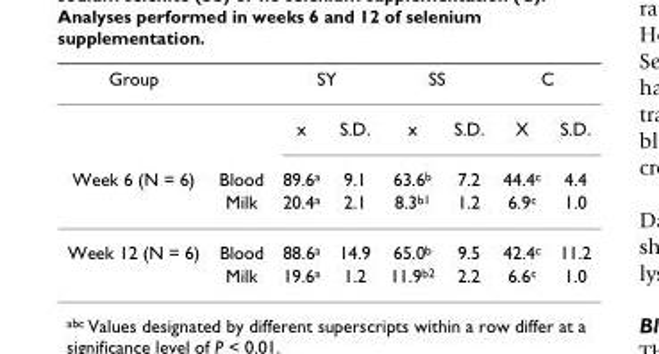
<table><thead><tr><td rowspan="2">Group</td><td rowspan="2"></td><td colspan="2">SY</td><td colspan="2">SS</td><td colspan="2">C</td></tr><tr><td>x</td><td>S.D.</td><td>x</td><td>S.D.</td><td>X</td><td>S.D.</td></tr></thead><tbody><tr><td rowspan="2">Week 6 (N = 6)</td><td>Blood</td><td>89.6<sup>a</sup></td><td>9.1</td><td>63.6<sup>b</sup></td><td>7.2</td><td>44.4<sup>c</sup></td><td>4.4</td></tr><tr><td>Milk</td><td>20.4<sup>a</sup></td><td>2.1</td><td>8.3<sup>b1</sup></td><td>1.2</td><td>6.9<sup>c</sup></td><td>1.0</td></tr><tr><td rowspan="2">Week 12 (N = 6)</td><td>Blood</td><td>88.6<sup>a</sup></td><td>14.9</td><td>65.0<sup>b</sup></td><td>9.5</td><td>42.4<sup>c</sup></td><td>11.2</td></tr><tr><td>Milk</td><td>19.6<sup>a</sup></td><td>1.2</td><td>11.9<sup>b2</sup></td><td>2.2</td><td>6.6<sup>c</sup></td><td>1.0</td></tr></tbody></table>